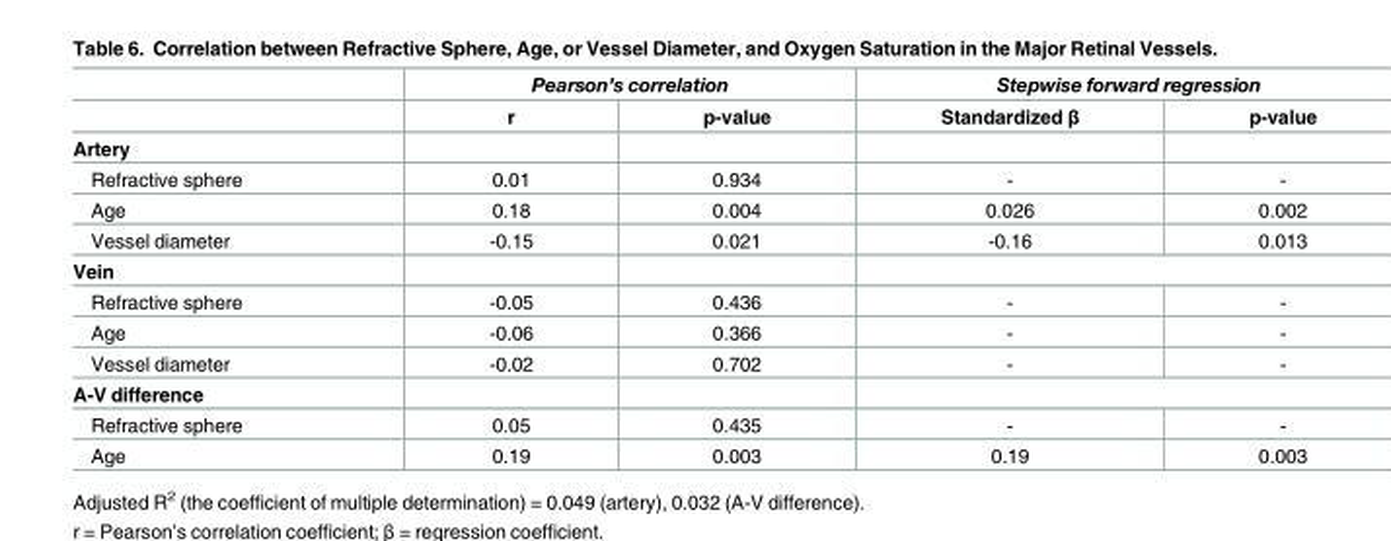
<table><thead><tr><td rowspan="2"></td><td colspan="2">Pearson’s correlation</td><td colspan="2">Stepwise forward regression</td></tr><tr><td>r</td><td>p-value</td><td>Standardized β</td><td>p-value</td></tr></thead><tbody><tr><td colspan="5">Artery</td></tr><tr><td>Refractive sphere</td><td>0.01</td><td>0.934</td><td>-</td><td>-</td></tr><tr><td>Age</td><td>0.18</td><td>0.004</td><td>0.026</td><td>0.002</td></tr><tr><td>Vessel diameter</td><td>-0.15</td><td>0.021</td><td>-0.16</td><td>0.013</td></tr><tr><td colspan="5">Vein</td></tr><tr><td>Refractive sphere</td><td>-0.05</td><td>0.436</td><td>-</td><td>-</td></tr><tr><td>Age</td><td>-0.06</td><td>0.366</td><td>-</td><td>-</td></tr><tr><td>Vessel diameter</td><td>-0.02</td><td>0.702</td><td>-</td><td>-</td></tr><tr><td colspan="5">A-V difference</td></tr><tr><td>Refractive sphere</td><td>0.05</td><td>0.435</td><td>-</td><td>-</td></tr><tr><td>Age</td><td>0.19</td><td>0.003</td><td>0.19</td><td>0.003</td></tr></tbody></table>